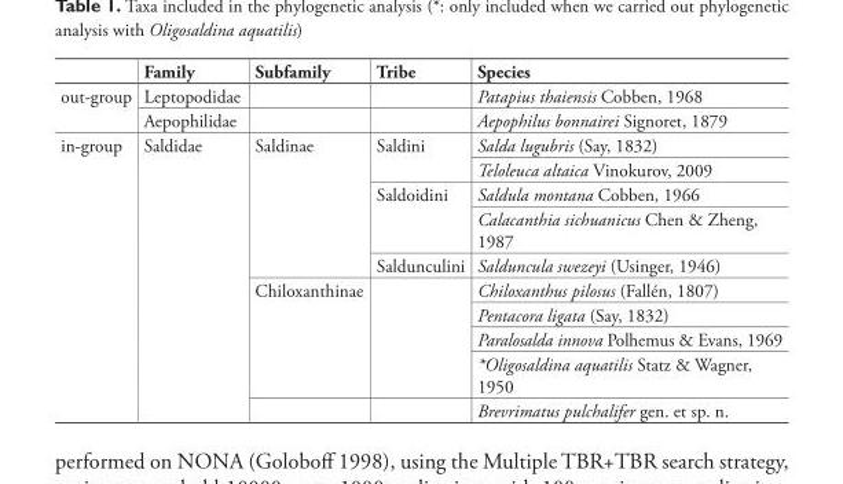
<table><thead><tr><td></td><td>Family</td><td>Subfamily</td><td>Tribe</td><td>Species</td></tr></thead><tbody><tr><td rowspan="2">out-group</td><td>Leptopodidae</td><td></td><td></td><td>Patapius thaiensis Cobben, 1968</td></tr><tr><td>Aepophilidae</td><td></td><td></td><td>Aepophilus bonnairei Signoret, 1879</td></tr><tr><td rowspan="10">in-group</td><td rowspan="10">Saldidae</td><td rowspan="5">Saldinae</td><td rowspan="2">Saldini</td><td>Salda lugubris (Say, 1832)</td></tr><tr><td>Teloleuca altaica Vinokurov, 2009</td></tr><tr><td rowspan="2">Saldoidini</td><td>Saldula montana Cobben, 1966</td></tr><tr><td>Calacanthia sichuanicus Chen &amp; Zheng, 1987</td></tr><tr><td>Saldunculini</td><td>Salduncula swezeyi (Usinger, 1946)</td></tr><tr><td rowspan="4">Chiloxanthinae</td><td rowspan="4"></td><td>Chiloxanthus pilosus (Fallén, 1807)</td></tr><tr><td>Pentacora ligata (Say, 1832)</td></tr><tr><td>Paralosalda innova Polhemus &amp; Evans, 1969</td></tr><tr><td>*Oligosaldina aquatilis Statz &amp; Wagner, 1950</td></tr><tr><td></td><td></td><td>Brevrimatus pulchalifer gen. et sp. n.</td></tr></tbody></table>